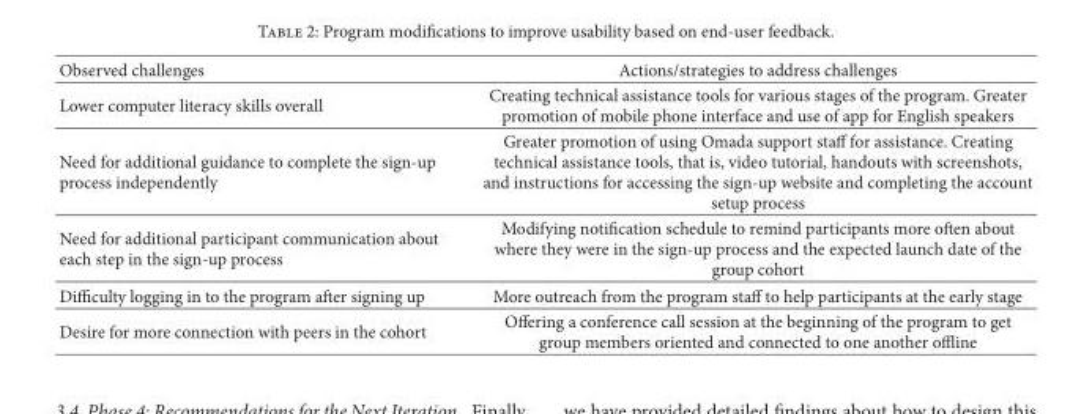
<table><thead><tr><td>Observed challenges</td><td>Actions/strategies to address challenges</td></tr></thead><tbody><tr><td>Lower computer literacy skills overall</td><td>Creating technical assistance tools for various stages of the program. Greater promotion of mobile phone interface and use of app for English speakers</td></tr><tr><td>Need for additional guidance to complete the sign-up process independently</td><td>Greater promotion of using Omada support staff for assistance. Creating technical assistance tools, that is, video tutorial, handouts with screenshots, and instructions for accessing the sign-up website and completing the account setup process</td></tr><tr><td>Need for additional participant communication about each step in the sign-up process</td><td>Modifying notification schedule to remind participants more often about where they were in the sign-up process and the expected launch date of the group cohort</td></tr><tr><td>Difficulty logging in to the program after signing up</td><td>More outreach from the program staff to help participants at the early stage</td></tr><tr><td>Desire for more connection with peers in the cohort</td><td>Offering a conference call session at the beginning of the program to get group members oriented and connected to one another offline</td></tr></tbody></table>